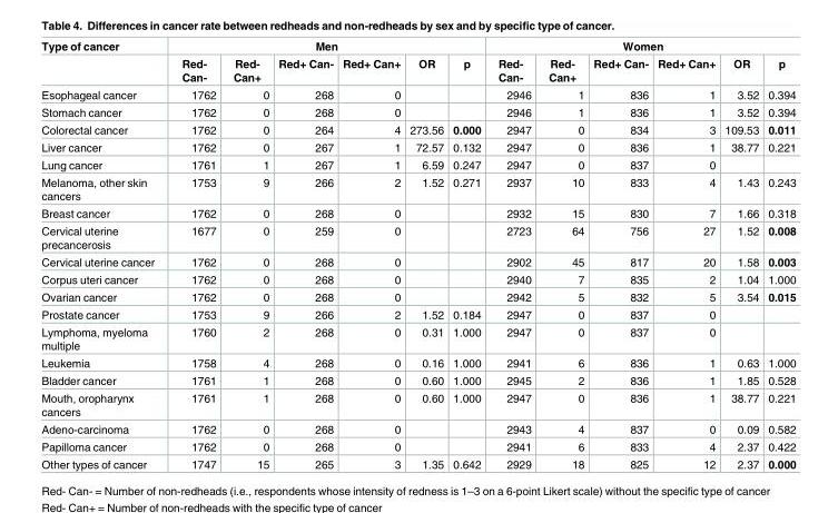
<table><thead><tr><td rowspan="2">Type of cancer</td><td colspan="6">Men</td><td colspan="6">Women</td></tr><tr><td>Red- Can-</td><td>Red- Can+</td><td>Red+ Can-</td><td>Red+ Can+</td><td>OR</td><td>p</td><td>Red- Can-</td><td>Red- Can+</td><td>Red+ Can-</td><td>Red+ Can+</td><td>OR</td><td>p</td></tr></thead><tbody><tr><td>Esophageal cancer</td><td>1762</td><td>0</td><td>268</td><td>0</td><td></td><td></td><td>2946</td><td>1</td><td>836</td><td>1</td><td>3.52</td><td>0.394</td></tr><tr><td>Stomach cancer</td><td>1762</td><td>0</td><td>268</td><td>0</td><td></td><td></td><td>2946</td><td>1</td><td>836</td><td>1</td><td>3.52</td><td>0.394</td></tr><tr><td>Colorectal cancer</td><td>1762</td><td>0</td><td>264</td><td>4</td><td>273.56</td><td>0.000</td><td>2947</td><td>0</td><td>834</td><td>3</td><td>109.53</td><td>0.011</td></tr><tr><td>Liver cancer</td><td>1762</td><td>0</td><td>267</td><td>1</td><td>72.57</td><td>0.132</td><td>2947</td><td>0</td><td>836</td><td>1</td><td>38.77</td><td>0.221</td></tr><tr><td>Lung cancer</td><td>1761</td><td>1</td><td>267</td><td>1</td><td>6.59</td><td>0.247</td><td>2947</td><td>0</td><td>837</td><td>0</td><td></td><td></td></tr><tr><td>Melanoma, other skin cancers</td><td>1753</td><td>9</td><td>266</td><td>2</td><td>1.52</td><td>0.271</td><td>2937</td><td>10</td><td>833</td><td>4</td><td>1.43</td><td>0.243</td></tr><tr><td>Breast cancer</td><td>1762</td><td>0</td><td>268</td><td>0</td><td></td><td></td><td>2932</td><td>15</td><td>830</td><td>7</td><td>1.66</td><td>0.318</td></tr><tr><td>Cervical uterine precancerosis</td><td>1677</td><td>0</td><td>259</td><td>0</td><td></td><td></td><td>2723</td><td>64</td><td>756</td><td>27</td><td>1.52</td><td>0.008</td></tr><tr><td>Cervical uterine cancer</td><td>1762</td><td>0</td><td>268</td><td>0</td><td></td><td></td><td>2902</td><td>45</td><td>817</td><td>20</td><td>1.58</td><td>0.003</td></tr><tr><td>Corpus uteri cancer</td><td>1762</td><td>0</td><td>268</td><td>0</td><td></td><td></td><td>2940</td><td>7</td><td>835</td><td>2</td><td>1.04</td><td>1.000</td></tr><tr><td>Ovarian cancer</td><td>1762</td><td>0</td><td>268</td><td>0</td><td></td><td></td><td>2942</td><td>5</td><td>832</td><td>5</td><td>3.54</td><td>0.015</td></tr><tr><td>Prostate cancer</td><td>1753</td><td>9</td><td>266</td><td>2</td><td>1.52</td><td>0.184</td><td>2947</td><td>0</td><td>837</td><td>0</td><td></td><td></td></tr><tr><td>Lymphoma, myeloma multiple</td><td>1760</td><td>2</td><td>268</td><td>0</td><td>0.31</td><td>1.000</td><td>2947</td><td>0</td><td>837</td><td>0</td><td></td><td></td></tr><tr><td>Leukemia</td><td>1758</td><td>4</td><td>268</td><td>0</td><td>0.16</td><td>1.000</td><td>2941</td><td>6</td><td>836</td><td>1</td><td>0.63</td><td>1.000</td></tr><tr><td>Bladder cancer</td><td>1761</td><td>1</td><td>268</td><td>0</td><td>0.60</td><td>1.000</td><td>2945</td><td>2</td><td>836</td><td>1</td><td>1.85</td><td>0.528</td></tr><tr><td>Mouth, oropharynx cancers</td><td>1761</td><td>1</td><td>268</td><td>0</td><td>0.60</td><td>1.000</td><td>2947</td><td>0</td><td>836</td><td>1</td><td>38.77</td><td>0.221</td></tr><tr><td>Adeno-carcinoma</td><td>1762</td><td>0</td><td>268</td><td>0</td><td></td><td></td><td>2943</td><td>4</td><td>837</td><td>0</td><td>0.09</td><td>0.582</td></tr><tr><td>Papilloma cancer</td><td>1762</td><td>0</td><td>268</td><td>0</td><td></td><td></td><td>2941</td><td>6</td><td>833</td><td>4</td><td>2.37</td><td>0.422</td></tr><tr><td>Other types of cancer</td><td>1747</td><td>15</td><td>265</td><td>3</td><td>1.35</td><td>0.642</td><td>2929</td><td>18</td><td>825</td><td>12</td><td>2.37</td><td>0.000</td></tr></tbody></table>